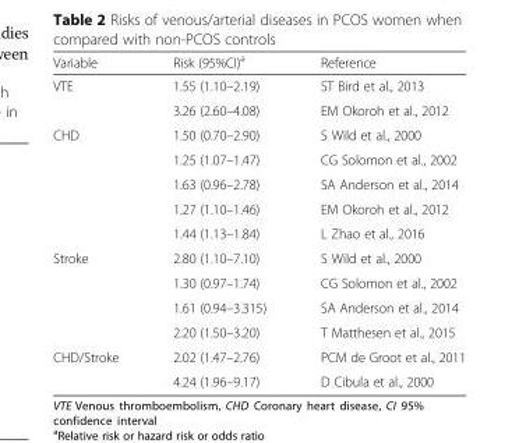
<table><thead><tr><td>Variable</td><td>Risk (95%CI)<sup>a</sup></td><td>Reference</td></tr></thead><tbody><tr><td rowspan="2">VTE</td><td>1.55 (1.10–2.19)</td><td>ST Bird et al., 2013</td></tr><tr><td>3.26 (2.60–4.08)</td><td>EM Okoroh et al., 2012</td></tr><tr><td rowspan="5">CHD</td><td>1.50 (0.70–2.90)</td><td>S Wild et al., 2000</td></tr><tr><td>1.25 (1.07–1.47)</td><td>CG Solomon et al., 2002</td></tr><tr><td>1.63 (0.96–2.78)</td><td>SA Anderson et al., 2014</td></tr><tr><td>1.27 (1.10–1.46)</td><td>EM Okoroh et al., 2012</td></tr><tr><td>1.44 (1.13–1.84)</td><td>L Zhao et al., 2016</td></tr><tr><td rowspan="4">Stroke</td><td>2.80 (1.10–7.10)</td><td>S Wild et al., 2000</td></tr><tr><td>1.30 (0.97–1.74)</td><td>CG Solomon et al., 2002</td></tr><tr><td>1.61 (0.94–3.315)</td><td>SA Anderson et al., 2014</td></tr><tr><td>2.20 (1.50–3.20)</td><td>T Matthesen et al., 2015</td></tr><tr><td rowspan="2">CHD/Stroke</td><td>2.02 (1.47–2.76)</td><td>PCM de Groot et al., 2011</td></tr><tr><td>4.24 (1.96–9.17)</td><td>D Cibula et al., 2000</td></tr></tbody></table>